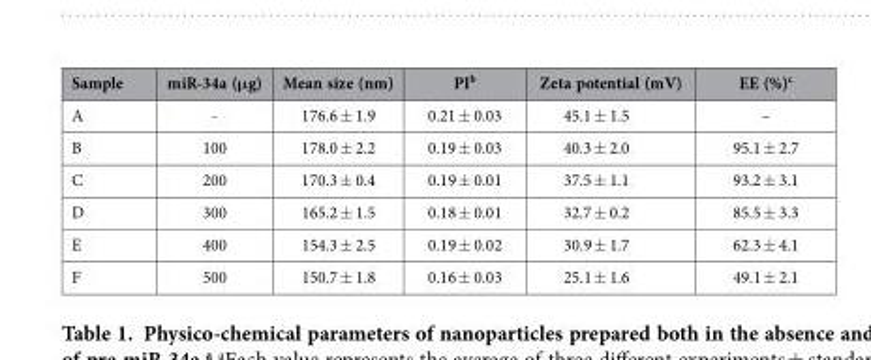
<table><thead><tr><td>Sample</td><td>miR-34a (μg)</td><td>Mean size (nm)</td><td>PI<sup>b</sup></td><td>Zeta potential (mV)</td><td>EE (%)<sup>c</sup></td></tr></thead><tbody><tr><td>A</td><td>-</td><td>176.6 ± 1.9</td><td>0.21 ± 0.03</td><td>45.1 ± 1.5</td><td>–</td></tr><tr><td>B</td><td>100</td><td>178.0 ± 2.2</td><td>0.19 ± 0.03</td><td>40.3 ± 2.0</td><td>95.1 ± 2.7</td></tr><tr><td>C</td><td>200</td><td>170.3 ± 0.4</td><td>0.19 ± 0.01</td><td>37.5 ± 1.1</td><td>93.2 ± 3.1</td></tr><tr><td>D</td><td>300</td><td>165.2 ± 1.5</td><td>0.18 ± 0.01</td><td>32.7 ± 0.2</td><td>85.5 ± 3.3</td></tr><tr><td>E</td><td>400</td><td>154.3 ± 2.5</td><td>0.19 ± 0.02</td><td>30.9 ± 1.7</td><td>62.3 ± 4.1</td></tr><tr><td>F</td><td>500</td><td>150.7 ± 1.8</td><td>0.16 ± 0.03</td><td>25.1 ± 1.6</td><td>49.1 ± 2.1</td></tr></tbody></table>